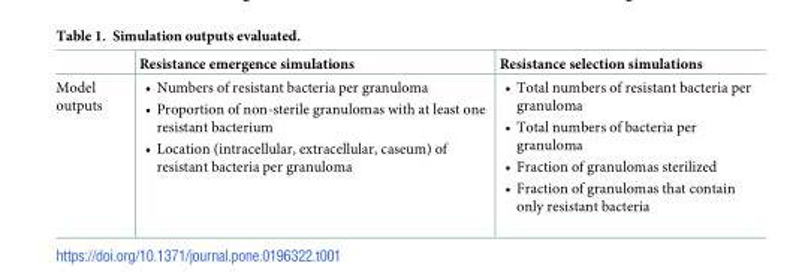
<table><thead><tr><td></td><td>Resistance emergence simulations</td><td>Resistance selection simulations</td></tr></thead><tbody><tr><td>Model outputs</td><td>• Numbers of resistant bacteria per granuloma • Proportion of non-sterile granulomas with at least one resistant bacterium • Location (intracellular, extracellular, caseum) of resistant bacteria per granuloma</td><td>• Total numbers of resistant bacteria per granuloma • Total numbers of bacteria per granuloma • Fraction of granulomas sterilized • Fraction of granulomas that contain only resistant bacteria</td></tr></tbody></table>